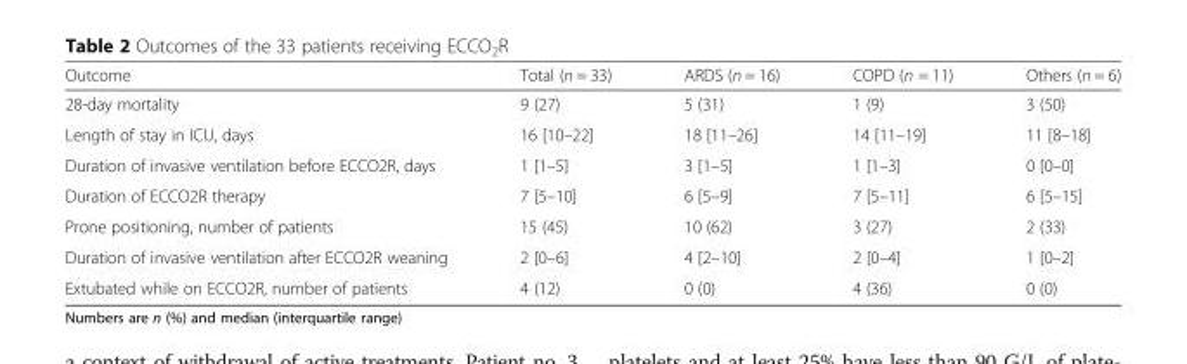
<table><thead><tr><td>Outcome</td><td>Total (n = 33)</td><td>ARDS (n = 16)</td><td>COPD (n = 11)</td><td>Others (n = 6)</td></tr></thead><tbody><tr><td>28-day mortality</td><td>9 (27)</td><td>5 (31)</td><td>1 (9)</td><td>3 (50)</td></tr><tr><td>Length of stay in ICU, days</td><td>16 [10–22]</td><td>18 [11–26]</td><td>14 [11–19]</td><td>11 [8–18]</td></tr><tr><td>Duration of invasive ventilation before ECCO2R, days</td><td>1 [1–5]</td><td>3 [1–5]</td><td>1 [1–3]</td><td>0 [0–0]</td></tr><tr><td>Duration of ECCO2R therapy</td><td>7 [5–10]</td><td>6 [5–9]</td><td>7 [5–11]</td><td>6 [5–15]</td></tr><tr><td>Prone positioning, number of patients</td><td>15 (45)</td><td>10 (62)</td><td>3 (27)</td><td>2 (33)</td></tr><tr><td>Duration of invasive ventilation after ECCO2R weaning</td><td>2 [0–6]</td><td>4 [2–10]</td><td>2 [0–4]</td><td>1 [0–2]</td></tr><tr><td>Extubated while on ECCO2R, number of patients</td><td>4 (12)</td><td>0 (0)</td><td>4 (36)</td><td>0 (0)</td></tr></tbody></table>